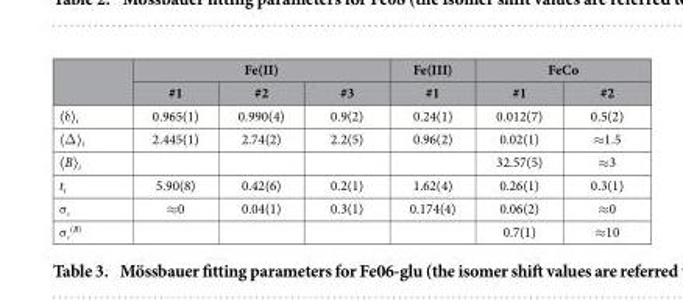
<table><thead><tr><td rowspan="2"></td><td colspan="3">Fe(II)</td><td rowspan="2">Fe(III) #1</td><td colspan="2">FeCo</td></tr><tr><td>#1</td><td>#2</td><td>#3</td><td>#1</td><td>#2</td></tr></thead><tbody><tr><td>〈 δ 〉 <sub>i</sub></td><td>0.965(1)</td><td>0.990(4)</td><td>0.9(2)</td><td>0.24(1)</td><td>0.012(7)</td><td>0.5(2)</td></tr><tr><td>〈 Δ 〉 <sub>i</sub></td><td>2.445(1)</td><td>2.74(2)</td><td>2.2(5)</td><td>0.96(2)</td><td>0.02(1)</td><td>≈ 1.5</td></tr><tr><td>〈 B〉 <sub>i</sub></td><td></td><td></td><td></td><td></td><td>32.57(5)</td><td>≈ 3</td></tr><tr><td>t<sub>i</sub></td><td>5.90(8)</td><td>0.42(6)</td><td>0.2(1)</td><td>1.62(4)</td><td>0.26(1)</td><td>0.3(1)</td></tr><tr><td>σ <sub>ι</sub></td><td>≈ 0</td><td>0.04(1)</td><td>0.3(1)</td><td>0.174(4)</td><td>0.06(2)</td><td>≈ 0</td></tr><tr><td>σ <sub>ι</sub> <sup>(B)</sup></td><td></td><td></td><td></td><td></td><td>0.7(1)</td><td>≈ 10</td></tr></tbody></table>